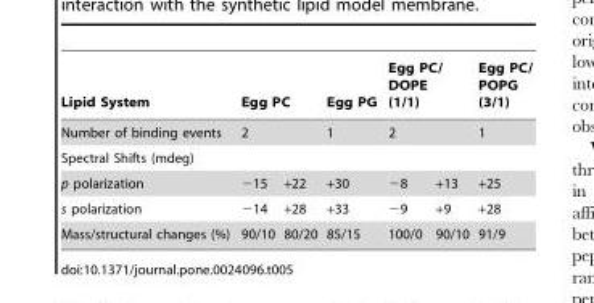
<table><thead><tr><td rowspan="3">Lipid System Number of binding events Spectral Shifts (mdeg)</td><td rowspan="2" colspan="2">Egg PC 2</td><td rowspan="3">Egg PG 1</td><td rowspan="2" colspan="2">Egg PC/ DOPE (1/1) 2</td><td rowspan="3">Egg PC/ POPG (3/1) 1</td></tr><tr></tr><tr><td></td><td></td><td></td><td></td></tr></thead><tbody><tr><td>p polarization</td><td>−15</td><td>+22</td><td>+30</td><td>−8</td><td>+13</td><td>+25</td></tr><tr><td>s polarization</td><td>−14</td><td>+28</td><td>+33</td><td>−9</td><td>+9</td><td>+28</td></tr><tr><td>Mass/structural changes (%)</td><td>90/10</td><td>80/20</td><td>85/15</td><td>100/0</td><td>90/10</td><td>91/9</td></tr></tbody></table>